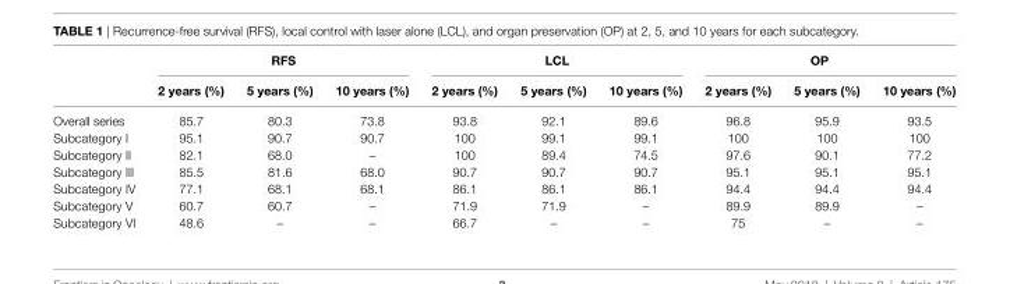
<table><thead><tr><td rowspan="2"></td><td colspan="3">rFs</td><td colspan="3">lcl</td><td colspan="3">OP</td></tr><tr><td>2 years (%)</td><td>5 years (%)</td><td>10 years (%)</td><td>2 years (%)</td><td>5 years (%)</td><td>10 years (%)</td><td>2 years (%)</td><td>5 years (%)</td><td>10 years (%)</td></tr></thead><tbody><tr><td>Overall series</td><td>85.7</td><td>80.3</td><td>73.8</td><td>93.8</td><td>92.1</td><td>89.6</td><td>96.8</td><td>95.9</td><td>93.5</td></tr><tr><td>Subcategory I</td><td>95.1</td><td>90.7</td><td>90.7</td><td>100</td><td>99.1</td><td>99.1</td><td>100</td><td>100</td><td>100</td></tr><tr><td>Subcategory II</td><td>82.1</td><td>68.0</td><td>–</td><td>100</td><td>89.4</td><td>74.5</td><td>97.6</td><td>90.1</td><td>77.2</td></tr><tr><td>Subcategory III</td><td>85.5</td><td>81.6</td><td>68.0</td><td>90.7</td><td>90.7</td><td>90.7</td><td>95.1</td><td>95.1</td><td>95.1</td></tr><tr><td>Subcategory IV</td><td>77.1</td><td>68.1</td><td>68.1</td><td>86.1</td><td>86.1</td><td>86.1</td><td>94.4</td><td>94.4</td><td>94.4</td></tr><tr><td>Subcategory V</td><td>60.7</td><td>60.7</td><td>–</td><td>71.9</td><td>71.9</td><td>–</td><td>89.9</td><td>89.9</td><td>–</td></tr><tr><td>Subcategory VI</td><td>48.6</td><td>–</td><td>–</td><td>66.7</td><td>–</td><td>–</td><td>75</td><td>–</td><td>–</td></tr></tbody></table>